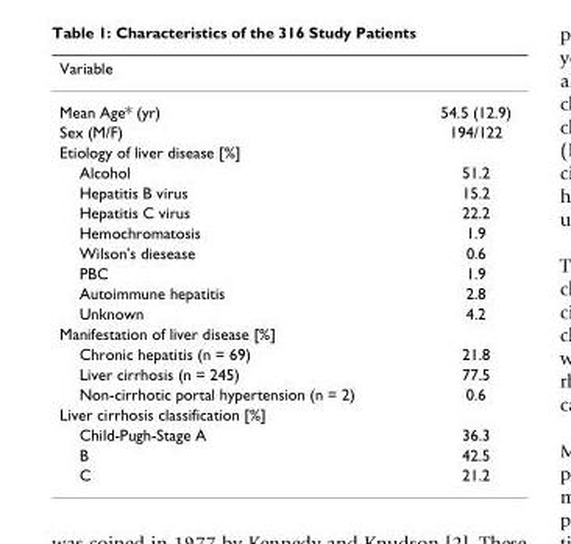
<table><thead><tr><td>Variable</td><td></td></tr></thead><tbody><tr><td>Mean Age* (yr)</td><td>54.5 (12.9)</td></tr><tr><td>Sex (M/F)</td><td>194/122</td></tr><tr><td colspan="2">Etiology of liver disease [%]</td></tr><tr><td>Alcohol</td><td>51.2</td></tr><tr><td>Hepatitis B virus</td><td>15.2</td></tr><tr><td>Hepatitis C virus</td><td>22.2</td></tr><tr><td>Hemochromatosis</td><td>1.9</td></tr><tr><td>Wilson&#x27;s diesease</td><td>0.6</td></tr><tr><td>PBC</td><td>1.9</td></tr><tr><td>Autoimmune hepatitis</td><td>2.8</td></tr><tr><td>Unknown</td><td>4.2</td></tr><tr><td colspan="2">Manifestation of liver disease [%]</td></tr><tr><td>Chronic hepatitis (n = 69)</td><td>21.8</td></tr><tr><td>Liver cirrhosis (n = 245)</td><td>77.5</td></tr><tr><td>Non-cirrhotic portal hypertension (n = 2)</td><td>0.6</td></tr><tr><td colspan="2">Liver cirrhosis classification [%]</td></tr><tr><td>Child-Pugh-Stage A</td><td>36.3</td></tr><tr><td>B</td><td>42.5</td></tr><tr><td>C</td><td>21.2</td></tr></tbody></table>